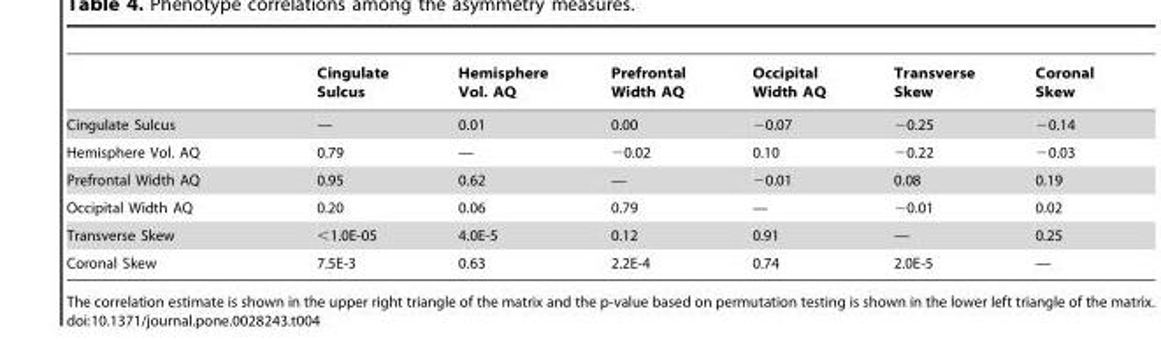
<table><thead><tr><td></td><td>Cingulate Sulcus</td><td>Hemisphere Vol. AQ</td><td>Prefrontal Width AQ</td><td>Occipital Width AQ</td><td>Transverse Skew</td><td>Coronal Skew</td></tr></thead><tbody><tr><td>Cingulate Sulcus</td><td>—</td><td>0.01</td><td>0.00</td><td>−0.07</td><td>−0.25</td><td>−0.14</td></tr><tr><td>Hemisphere Vol. AQ</td><td>0.79</td><td>—</td><td>−0.02</td><td>0.10</td><td>−0.22</td><td>−0.03</td></tr><tr><td>Prefrontal Width AQ</td><td>0.95</td><td>0.62</td><td>—</td><td>−0.01</td><td>0.08</td><td>0.19</td></tr><tr><td>Occipital Width AQ</td><td>0.20</td><td>0.06</td><td>0.79</td><td>—</td><td>−0.01</td><td>0.02</td></tr><tr><td>Transverse Skew</td><td>&lt;1.0E-05</td><td>4.0E-5</td><td>0.12</td><td>0.91</td><td>—</td><td>0.25</td></tr><tr><td>Coronal Skew</td><td>7.5E-3</td><td>0.63</td><td>2.2E-4</td><td>0.74</td><td>2.0E-5</td><td>—</td></tr></tbody></table>